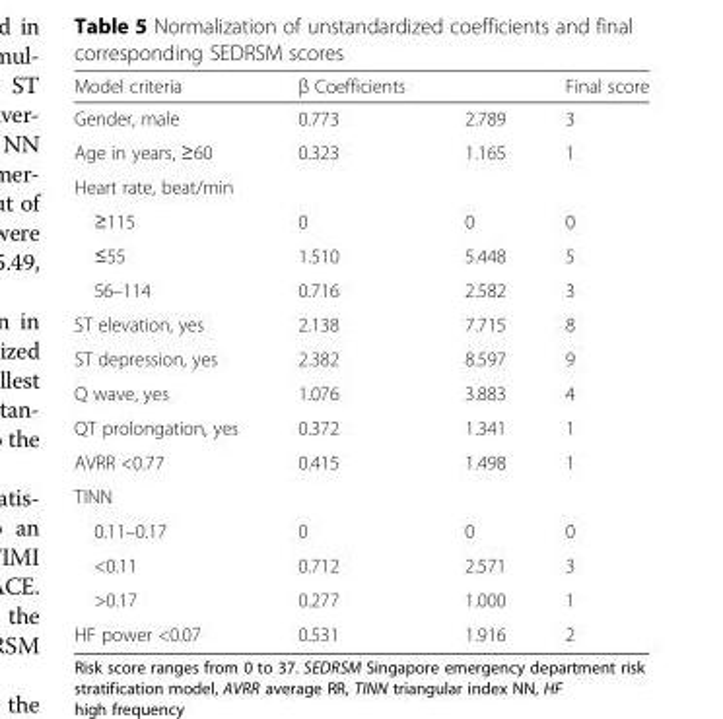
<table><thead><tr><td>Model criteria</td><td>β Coefficients</td><td></td><td>Final score</td></tr></thead><tbody><tr><td>Gender, male</td><td>0.773</td><td>2.789</td><td>3</td></tr><tr><td>Age in years, ≥60</td><td>0.323</td><td>1.165</td><td>1</td></tr><tr><td colspan="4">Heart rate, beat/min</td></tr><tr><td>≥115</td><td>0</td><td>0</td><td>0</td></tr><tr><td>≤55</td><td>1.510</td><td>5.448</td><td>5</td></tr><tr><td>56–114</td><td>0.716</td><td>2.582</td><td>3</td></tr><tr><td>ST elevation, yes</td><td>2.138</td><td>7.715</td><td>8</td></tr><tr><td>ST depression, yes</td><td>2.382</td><td>8.597</td><td>9</td></tr><tr><td>Q wave, yes</td><td>1.076</td><td>3.883</td><td>4</td></tr><tr><td>QT prolongation, yes</td><td>0.372</td><td>1.341</td><td>1</td></tr><tr><td>AVRR &lt;0.77</td><td>0.415</td><td>1.498</td><td>1</td></tr><tr><td colspan="4">TINN</td></tr><tr><td>0.11–0.17</td><td>0</td><td>0</td><td>0</td></tr><tr><td>&lt;0.11</td><td>0.712</td><td>2.571</td><td>3</td></tr><tr><td>&gt;0.17</td><td>0.277</td><td>1.000</td><td>1</td></tr><tr><td>HF power &lt;0.07</td><td>0.531</td><td>1.916</td><td>2</td></tr></tbody></table>